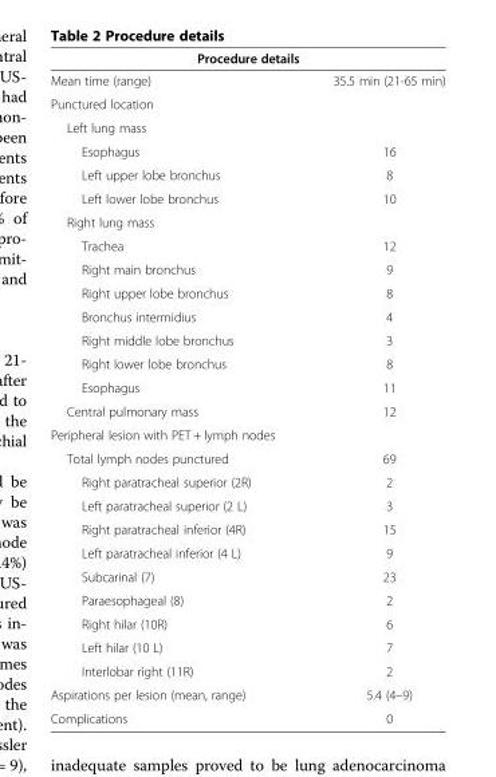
<table><thead><tr><td colspan="2">Procedure details</td></tr><tr><td>Mean time (range)</td><td>35.5 min (21-65 min)</td></tr></thead><tbody><tr><td colspan="2">Punctured location</td></tr><tr><td colspan="2">Left lung mass</td></tr><tr><td>Esophagus</td><td>16</td></tr><tr><td>Left upper lobe bronchus</td><td>8</td></tr><tr><td>Left lower lobe bronchus</td><td>10</td></tr><tr><td colspan="2">Right lung mass</td></tr><tr><td>Trachea</td><td>12</td></tr><tr><td>Right main bronchus</td><td>9</td></tr><tr><td>Right upper lobe bronchus</td><td>8</td></tr><tr><td>Bronchus intermidius</td><td>4</td></tr><tr><td>Right middle lobe bronchus</td><td>3</td></tr><tr><td>Right lower lobe bronchus</td><td>8</td></tr><tr><td>Esophagus</td><td>11</td></tr><tr><td>Central pulmonary mass</td><td>12</td></tr><tr><td colspan="2">Peripheral lesion with PET + lymph nodes</td></tr><tr><td>Total lymph nodes punctured</td><td>69</td></tr><tr><td>Right paratracheal superior (2R)</td><td>2</td></tr><tr><td>Left paratracheal superior (2 L)</td><td>3</td></tr><tr><td>Right paratracheal inferior (4R)</td><td>15</td></tr><tr><td>Left paratracheal inferior (4 L)</td><td>9</td></tr><tr><td>Subcarinal (7)</td><td>23</td></tr><tr><td>Paraesophageal (8)</td><td>2</td></tr><tr><td>Right hilar (10R)</td><td>6</td></tr><tr><td>Left hilar (10 L)</td><td>7</td></tr><tr><td>Interlobar right (11R)</td><td>2</td></tr><tr><td>Aspirations per lesion (mean, range)</td><td>5.4 (4–9)</td></tr><tr><td>Complications</td><td>0</td></tr></tbody></table>